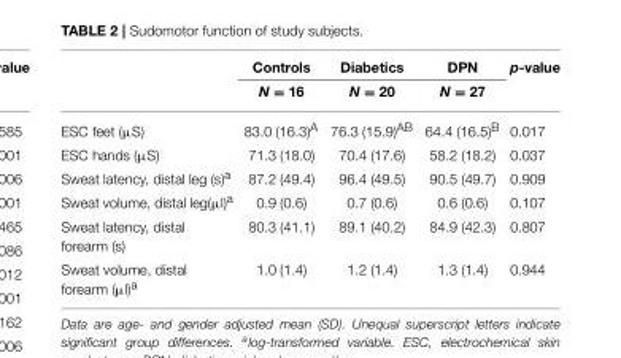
<table><thead><tr><td></td><td>Controls</td><td>Diabetics</td><td>DPN</td><td>p-value</td></tr></thead><tbody><tr><td></td><td>N = 16</td><td>N = 20</td><td>N = 27</td><td></td></tr><tr><td>ESC feet (µS)</td><td>83.0 (16.3)<sup>A</sup></td><td>76.3 (15.9)<sup>AB</sup></td><td>64.4 (16.5)<sup>B</sup></td><td>0.017</td></tr><tr><td>ESC hands (µS)</td><td>71.3 (18.0)</td><td>70.4 (17.6)</td><td>58.2 (18.2)</td><td>0.037</td></tr><tr><td>Sweat latency, distal leg (s)<sup>a</sup></td><td>87.2 (49.4)</td><td>96.4 (49.5)</td><td>90.5 (49.7)</td><td>0.909</td></tr><tr><td>Sweat volume, distal leg(µl)<sup>a</sup></td><td>0.9 (0.6)</td><td>0.7 (0.6)</td><td>0.6 (0.6)</td><td>0.107</td></tr><tr><td>Sweat latency, distal forearm (s)</td><td>80.3 (41.1)</td><td>89.1 (40.2)</td><td>84.9 (42.3)</td><td>0.807</td></tr><tr><td>Sweat volume, distal forearm (µl)<sup>a</sup></td><td>1.0 (1.4)</td><td>1.2 (1.4)</td><td>1.3 (1.4)</td><td>0.944</td></tr></tbody></table>